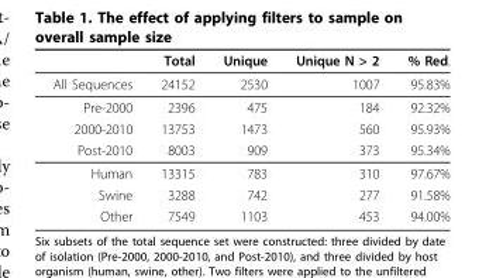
<table><thead><tr><td></td><td>Total</td><td>Unique</td><td>Unique N &gt; 2</td><td>% Red.</td></tr></thead><tbody><tr><td>All Sequences</td><td>24152</td><td>2530</td><td>1007</td><td>95.83%</td></tr><tr><td>Pre-2000</td><td>2396</td><td>475</td><td>184</td><td>92.32%</td></tr><tr><td>2000-2010</td><td>13753</td><td>1473</td><td>560</td><td>95.93%</td></tr><tr><td>Post-2010</td><td>8003</td><td>909</td><td>373</td><td>95.34%</td></tr><tr><td>Human</td><td>13315</td><td>783</td><td>310</td><td>97.67%</td></tr><tr><td>Swine</td><td>3288</td><td>742</td><td>277</td><td>91.58%</td></tr><tr><td>Other</td><td>7549</td><td>1103</td><td>453</td><td>94.00%</td></tr></tbody></table>